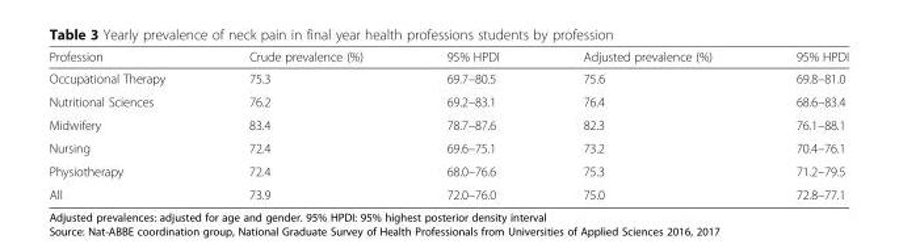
<table><thead><tr><td>Profession</td><td>Crude prevalence (%)</td><td>95% HPDI</td><td>Adjusted prevalence (%)</td><td>95% HPDI</td></tr></thead><tbody><tr><td>Occupational Therapy</td><td>75.3</td><td>69.7–80.5</td><td>75.6</td><td>69.8–81.0</td></tr><tr><td>Nutritional Sciences</td><td>76.2</td><td>69.2–83.1</td><td>76.4</td><td>68.6–83.4</td></tr><tr><td>Midwifery</td><td>83.4</td><td>78.7–87.6</td><td>82.3</td><td>76.1–88.1</td></tr><tr><td>Nursing</td><td>72.4</td><td>69.6–75.1</td><td>73.2</td><td>70.4–76.1</td></tr><tr><td>Physiotherapy</td><td>72.4</td><td>68.0–76.6</td><td>75.3</td><td>71.2–79.5</td></tr><tr><td>All</td><td>73.9</td><td>72.0–76.0</td><td>75.0</td><td>72.8–77.1</td></tr></tbody></table>